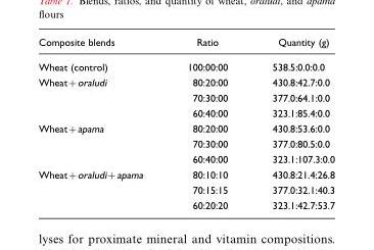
<table><thead><tr><td>Composite blends</td><td>Ratio</td><td>Quantity (g)</td></tr></thead><tbody><tr><td>Wheat (control)</td><td>100:00:00</td><td>538.5:0.0:0.0</td></tr><tr><td rowspan="3">Wheat+oraludi</td><td>80:20:00</td><td>430.8:42.7:0.0</td></tr><tr><td>70:30:00</td><td>377.0:64.1:0.0</td></tr><tr><td>60:40:00</td><td>323.1:85.4:0.0</td></tr><tr><td rowspan="3">Wheat+apama</td><td>80:20:00</td><td>430.8:53.6:0.0</td></tr><tr><td>70:30:00</td><td>377.0:80.5:0.0</td></tr><tr><td>60:40:00</td><td>323.1:107.3:0.0</td></tr><tr><td rowspan="3">Wheat+oraludi+apama</td><td>80:10:10</td><td>430.8:21.4:26.8</td></tr><tr><td>70:15:15</td><td>377.0:32.1:40.3</td></tr><tr><td>60:20:20</td><td>323.1:42.7:53.7</td></tr></tbody></table>